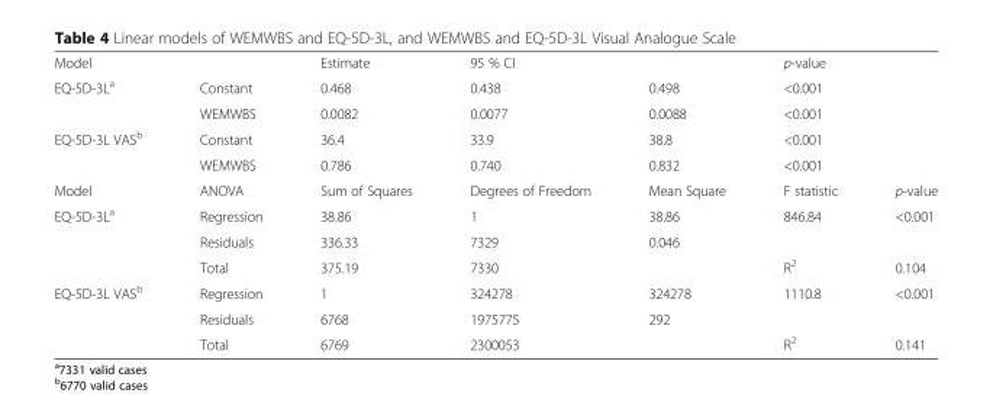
<table><tbody><tr><td>Model</td><td></td><td>Estimate</td><td colspan="2">95 % CI</td><td>p-value</td><td></td></tr><tr><td rowspan="2">EQ-5D-3L<sup>a</sup></td><td>Constant</td><td>0.468</td><td>0.438</td><td>0.498</td><td>&lt;0.001</td><td></td></tr><tr><td>WEMWBS</td><td>0.0082</td><td>0.0077</td><td>0.0088</td><td>&lt;0.001</td><td></td></tr><tr><td rowspan="2">EQ-5D-3L VAS<sup>b</sup></td><td>Constant</td><td>36.4</td><td>33.9</td><td>38.8</td><td>&lt;0.001</td><td></td></tr><tr><td>WEMWBS</td><td>0.786</td><td>0.740</td><td>0.832</td><td>&lt;0.001</td><td></td></tr><tr><td>Model</td><td>ANOVA</td><td>Sum of Squares</td><td>Degrees of Freedom</td><td>Mean Square</td><td>F statistic</td><td>p-value</td></tr><tr><td rowspan="3">EQ-5D-3L<sup>a</sup></td><td>Regression</td><td>38.86</td><td>1</td><td>38.86</td><td>846.84</td><td>&lt;0.001</td></tr><tr><td>Residuals</td><td>336.33</td><td>7329</td><td>0.046</td><td></td><td></td></tr><tr><td>Total</td><td>375.19</td><td>7330</td><td></td><td>R<sup>2</sup></td><td>0.104</td></tr><tr><td rowspan="3">EQ-5D-3L VAS<sup>b</sup></td><td>Regression</td><td>1</td><td>324278</td><td>324278</td><td>1110.8</td><td>&lt;0.001</td></tr><tr><td>Residuals</td><td>6768</td><td>1975775</td><td>292</td><td></td><td></td></tr><tr><td>Total</td><td>6769</td><td>2300053</td><td></td><td>R<sup>2</sup></td><td>0.141</td></tr></tbody></table>